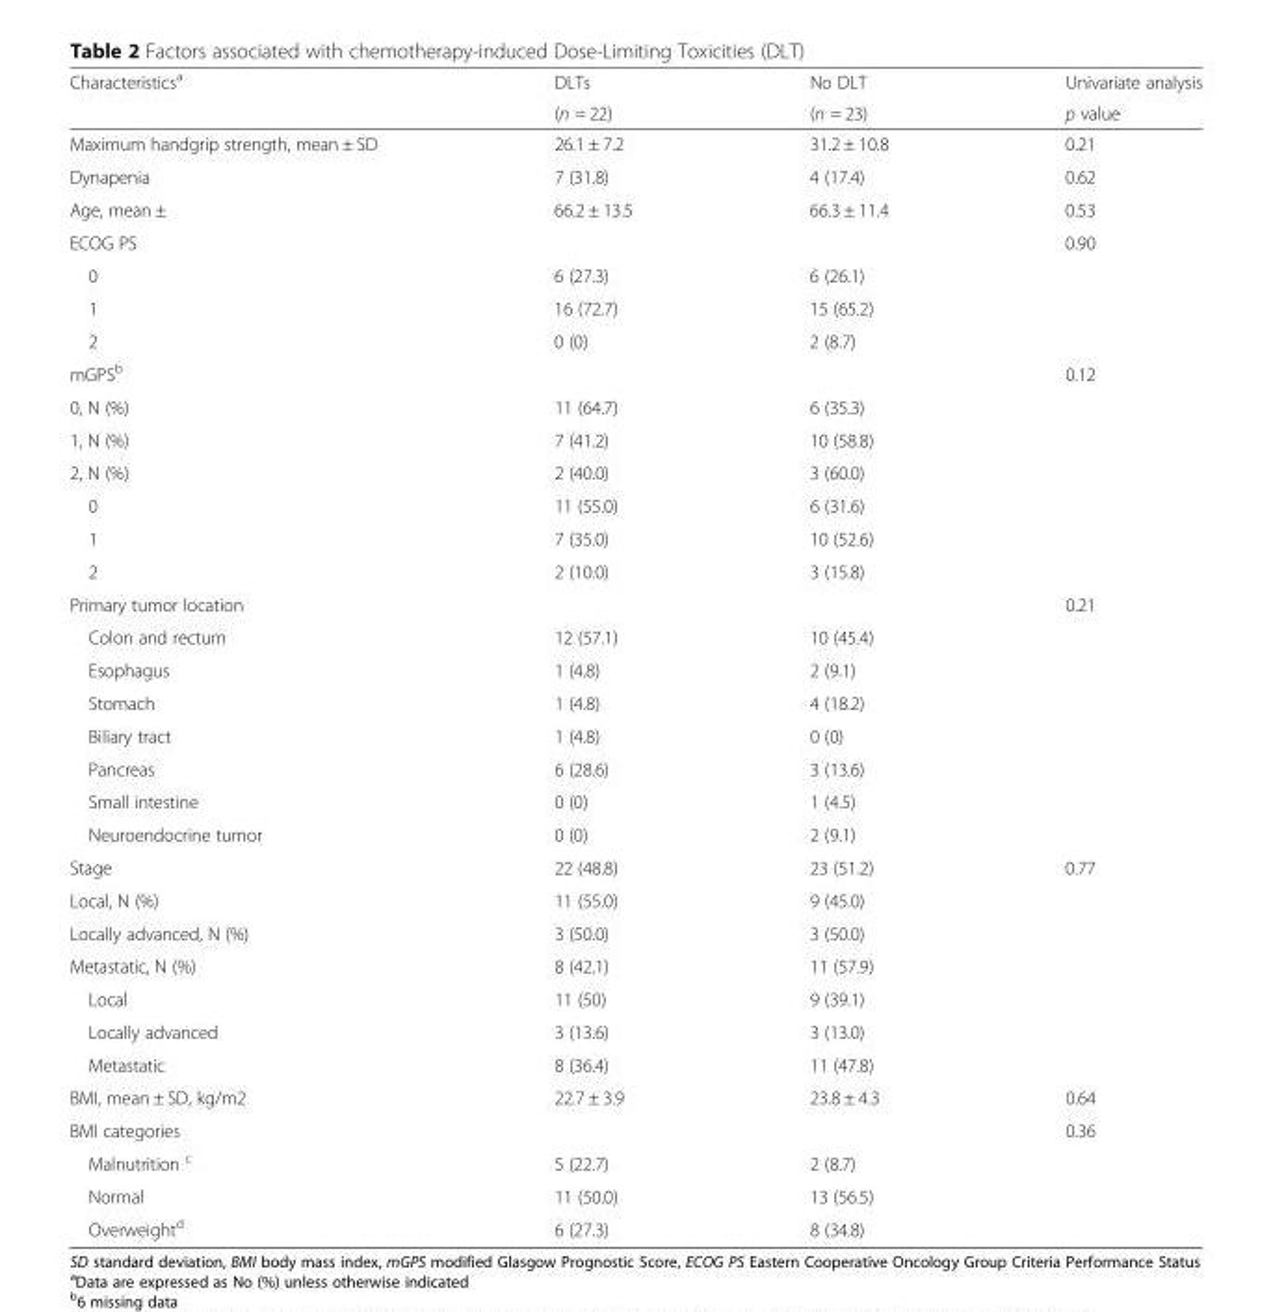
<table><thead><tr><td rowspan="2">Characteristics<sup>a</sup></td><td rowspan="2">DLTs (n = 22)</td><td rowspan="2">No DLT (n = 23)</td><td rowspan="2">Univariate analysis p value</td></tr><tr></tr></thead><tbody><tr><td>Maximum handgrip strength, mean ± SD</td><td>26.1 ± 7.2</td><td>31.2 ± 10.8</td><td>0.21</td></tr><tr><td>Dynapenia</td><td>7 (31.8)</td><td>4 (17.4)</td><td>0.62</td></tr><tr><td>Age, mean ±</td><td>66.2 ± 13.5</td><td>66.3 ± 11.4</td><td>0.53</td></tr><tr><td>ECOG PS</td><td></td><td></td><td>0.90</td></tr><tr><td>0</td><td>6 (27.3)</td><td>6 (26.1)</td><td></td></tr><tr><td>1</td><td>16 (72.7)</td><td>15 (65.2)</td><td></td></tr><tr><td>2</td><td>0 (0)</td><td>2 (8.7)</td><td></td></tr><tr><td>mGPS<sup>b</sup></td><td></td><td></td><td>0.12</td></tr><tr><td>0, N (%)</td><td>11 (64.7)</td><td>6 (35.3)</td><td></td></tr><tr><td>1, N (%)</td><td>7 (41.2)</td><td>10 (58.8)</td><td></td></tr><tr><td>2, N (%)</td><td>2 (40.0)</td><td>3 (60.0)</td><td></td></tr><tr><td>0</td><td>11 (55.0)</td><td>6 (31.6)</td><td></td></tr><tr><td>1</td><td>7 (35.0)</td><td>10 (52.6)</td><td></td></tr><tr><td>2</td><td>2 (10.0)</td><td>3 (15.8)</td><td></td></tr><tr><td>Primary tumor location</td><td></td><td></td><td>0.21</td></tr><tr><td>Colon and rectum</td><td>12 (57.1)</td><td>10 (45.4)</td><td></td></tr><tr><td>Esophagus</td><td>1 (4.8)</td><td>2 (9.1)</td><td></td></tr><tr><td>Stomach</td><td>1 (4.8)</td><td>4 (18.2)</td><td></td></tr><tr><td>Biliary tract</td><td>1 (4.8)</td><td>0 (0)</td><td></td></tr><tr><td>Pancreas</td><td>6 (28.6)</td><td>3 (13.6)</td><td></td></tr><tr><td>Small intestine</td><td>0 (0)</td><td>1 (4.5)</td><td></td></tr><tr><td>Neuroendocrine tumor</td><td>0 (0)</td><td>2 (9.1)</td><td></td></tr><tr><td>Stage</td><td>22 (48.8)</td><td>23 (51.2)</td><td>0.77</td></tr><tr><td>Local, N (%)</td><td>11 (55.0)</td><td>9 (45.0)</td><td></td></tr><tr><td>Locally advanced, N (%)</td><td>3 (50.0)</td><td>3 (50.0)</td><td></td></tr><tr><td>Metastatic, N (%)</td><td>8 (42.1)</td><td>11 (57.9)</td><td></td></tr><tr><td>Local</td><td>11 (50)</td><td>9 (39.1)</td><td></td></tr><tr><td>Locally advanced</td><td>3 (13.6)</td><td>3 (13.0)</td><td></td></tr><tr><td>Metastatic</td><td>8 (36.4)</td><td>11 (47.8)</td><td></td></tr><tr><td>BMI, mean ± SD, kg/m2</td><td>22.7 ± 3.9</td><td>23.8 ± 4.3</td><td>0.64</td></tr><tr><td>BMI categories</td><td></td><td></td><td>0.36</td></tr><tr><td>Malnutrition <sup>c</sup></td><td>5 (22.7)</td><td>2 (8.7)</td><td></td></tr><tr><td>Normal</td><td>11 (50.0)</td><td>13 (56.5)</td><td></td></tr><tr><td>Overweight<sup>d</sup></td><td>6 (27.3)</td><td>8 (34.8)</td><td></td></tr></tbody></table>